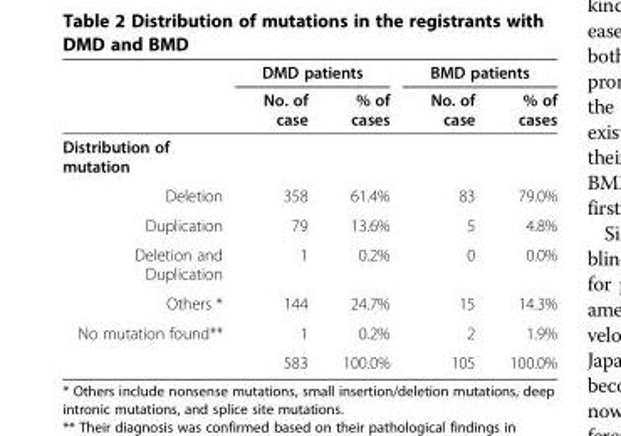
<table><thead><tr><td rowspan="2"></td><td colspan="2">DMD patients</td><td colspan="2">BMD patients</td></tr><tr><td>No. of case</td><td>% of cases</td><td>No. of case</td><td>% of cases</td></tr></thead><tbody><tr><td colspan="5">Distribution of mutation</td></tr><tr><td>Deletion</td><td>358</td><td>61.4%</td><td>83</td><td>79.0%</td></tr><tr><td>Duplication</td><td>79</td><td>13.6%</td><td>5</td><td>4.8%</td></tr><tr><td>Deletion and Duplication</td><td>1</td><td>0.2%</td><td>0</td><td>0.0%</td></tr><tr><td>Others *</td><td>144</td><td>24.7%</td><td>15</td><td>14.3%</td></tr><tr><td rowspan="2">No mutation found**</td><td>1</td><td>0.2%</td><td>2</td><td>1.9%</td></tr><tr><td>583</td><td>100.0%</td><td>105</td><td>100.0%</td></tr></tbody></table>